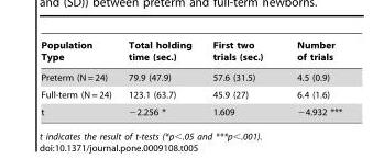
<table><thead><tr><td>Population Type</td><td>Total holding time (sec.)</td><td>First two trials (sec.)</td><td>Number of trials</td></tr></thead><tbody><tr><td>Preterm (N = 24)</td><td>79.9 (47.9)</td><td>57.6 (31.5)</td><td>4.5 (0.9)</td></tr><tr><td>Full-term (N = 24)</td><td>123.1 (63.7)</td><td>45.9 (27)</td><td>6.4 (1.6)</td></tr><tr><td>t</td><td>−2.256 *</td><td>1.609</td><td>−4.932 ***</td></tr></tbody></table>